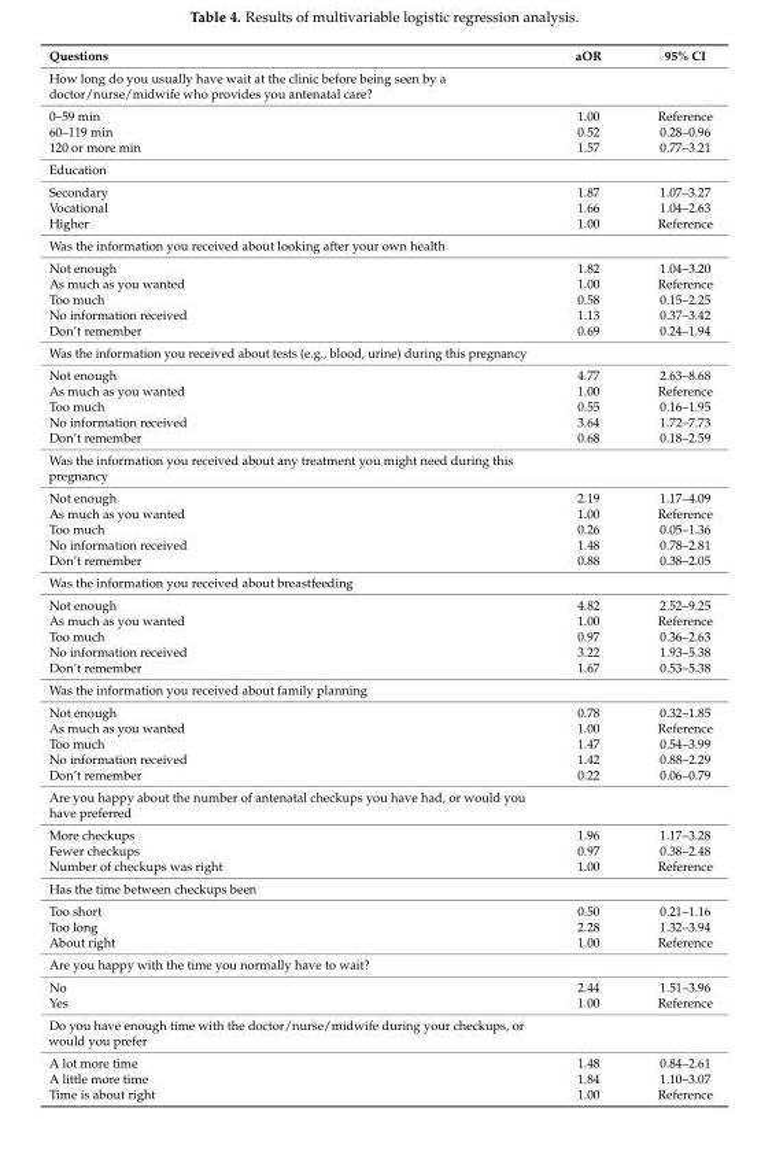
<table><thead><tr><td>Questions</td><td>aOR</td><td>95% CI</td></tr></thead><tbody><tr><td colspan="3">How long do you usually have wait at the clinic before being seen by a doctor/nurse/midwife who provides you antenatal care?</td></tr><tr><td>0–59 min</td><td>1.00</td><td>Reference</td></tr><tr><td>60–119 min</td><td>0.52</td><td>0.28–0.96</td></tr><tr><td>120 or more min</td><td>1.57</td><td>0.77–3.21</td></tr><tr><td colspan="3">Education</td></tr><tr><td>Secondary</td><td>1.87</td><td>1.07–3.27</td></tr><tr><td>Vocational</td><td>1.66</td><td>1.04–2.63</td></tr><tr><td>Higher</td><td>1.00</td><td>Reference</td></tr><tr><td colspan="3">Was the information you received about looking after your own health</td></tr><tr><td>Not enough</td><td>1.82</td><td>1.04–3.20</td></tr><tr><td>As much as you wanted</td><td>1.00</td><td>Reference</td></tr><tr><td>Too much</td><td>0.58</td><td>0.15–2.25</td></tr><tr><td>No information received</td><td>1.13</td><td>0.37–3.42</td></tr><tr><td>Don’t remember</td><td>0.69</td><td>0.24–1.94</td></tr><tr><td colspan="3">Was the information you received about tests (e.g., blood, urine) during this pregnancy</td></tr><tr><td>Not enough</td><td>4.77</td><td>2.63–8.68</td></tr><tr><td>As much as you wanted</td><td>1.00</td><td>Reference</td></tr><tr><td>Too much</td><td>0.55</td><td>0.16–1.95</td></tr><tr><td>No information received</td><td>3.64</td><td>1.72–7.73</td></tr><tr><td>Don’t remember</td><td>0.68</td><td>0.18–2.59</td></tr><tr><td colspan="3">Was the information you received about any treatment you might need during this pregnancy</td></tr><tr><td>Not enough</td><td>2.19</td><td>1.17–4.09</td></tr><tr><td>As much as you wanted</td><td>1.00</td><td>Reference</td></tr><tr><td>Too much</td><td>0.26</td><td>0.05–1.36</td></tr><tr><td>No information received</td><td>1.48</td><td>0.78–2.81</td></tr><tr><td>Don’t remember</td><td>0.88</td><td>0.38–2.05</td></tr><tr><td colspan="3">Was the information you received about breastfeeding</td></tr><tr><td>Not enough</td><td>4.82</td><td>2.52–9.25</td></tr><tr><td>As much as you wanted</td><td>1.00</td><td>Reference</td></tr><tr><td>Too much</td><td>0.97</td><td>0.36–2.63</td></tr><tr><td>No information received</td><td>3.22</td><td>1.93–5.38</td></tr><tr><td>Don’t remember</td><td>1.67</td><td>0.53–5.38</td></tr><tr><td colspan="3">Was the information you received about family planning</td></tr><tr><td>Not enough</td><td>0.78</td><td>0.32–1.85</td></tr><tr><td>As much as you wanted</td><td>1.00</td><td>Reference</td></tr><tr><td>Too much</td><td>1.47</td><td>0.54–3.99</td></tr><tr><td>No information received</td><td>1.42</td><td>0.88–2.29</td></tr><tr><td>Don’t remember</td><td>0.22</td><td>0.06–0.79</td></tr><tr><td colspan="3">Are you happy about the number of antenatal checkups you have had, or would you have preferred</td></tr><tr><td>More checkups</td><td>1.96</td><td>1.17–3.28</td></tr><tr><td>Fewer checkups</td><td>0.97</td><td>0.38–2.48</td></tr><tr><td>Number of checkups was right</td><td>1.00</td><td>Reference</td></tr><tr><td colspan="3">Has the time between checkups been</td></tr><tr><td>Too short</td><td>0.50</td><td>0.21–1.16</td></tr><tr><td>Too long</td><td>2.28</td><td>1.32–3.94</td></tr><tr><td>About right</td><td>1.00</td><td>Reference</td></tr><tr><td colspan="3">Are you happy with the time you normally have to wait?</td></tr><tr><td>No</td><td>2.44</td><td>1.51–3.96</td></tr><tr><td>Yes</td><td>1.00</td><td>Reference</td></tr><tr><td colspan="3">Do you have enough time with the doctor/nurse/midwife during your checkups, or would you prefer</td></tr><tr><td>A lot more time</td><td>1.48</td><td>0.84–2.61</td></tr><tr><td>A little more time</td><td>1.84</td><td>1.10–3.07</td></tr><tr><td>Time is about right</td><td>1.00</td><td>Reference</td></tr></tbody></table>